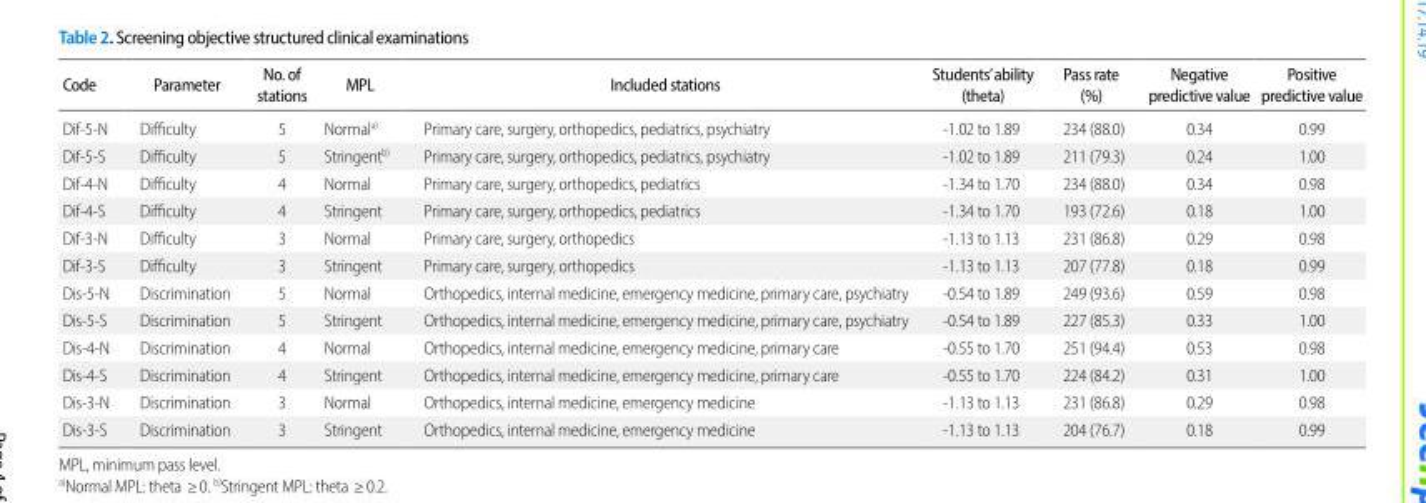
<table><thead><tr><td>Code</td><td>Parameter</td><td>No. of stations</td><td>MPL</td><td>Included stations</td><td>Students’ ability (theta)</td><td>Pass rate (%)</td><td>Negative predictive value</td><td>Positive predictive value</td></tr></thead><tbody><tr><td>Dif-5-N</td><td>Difficulty</td><td>5</td><td>Normal<sup>a)</sup></td><td>Primary care, surgery, orthopedics, pediatrics, psychiatry</td><td>-1.02 to 1.89</td><td>234 (88.0)</td><td>0.34</td><td>0.99</td></tr><tr><td>Dif-5-S</td><td>Difficulty</td><td>5</td><td>Stringent<sup>b)</sup></td><td>Primary care, surgery, orthopedics, pediatrics, psychiatry</td><td>-1.02 to 1.89</td><td>211 (79.3)</td><td>0.24</td><td>1.00</td></tr><tr><td>Dif-4-N</td><td>Difficulty</td><td>4</td><td>Normal</td><td>Primary care, surgery, orthopedics, pediatrics</td><td>-1.34 to 1.70</td><td>234 (88.0)</td><td>0.34</td><td>0.98</td></tr><tr><td>Dif-4-S</td><td>Difficulty</td><td>4</td><td>Stringent</td><td>Primary care, surgery, orthopedics, pediatrics</td><td>-1.34 to 1.70</td><td>193 (72.6)</td><td>0.18</td><td>1.00</td></tr><tr><td>Dif-3-N</td><td>Difficulty</td><td>3</td><td>Normal</td><td>Primary care, surgery, orthopedics</td><td>-1.13 to 1.13</td><td>231 (86.8)</td><td>0.29</td><td>0.98</td></tr><tr><td>Dif-3-S</td><td>Difficulty</td><td>3</td><td>Stringent</td><td>Primary care, surgery, orthopedics</td><td>-1.13 to 1.13</td><td>207 (77.8)</td><td>0.18</td><td>0.99</td></tr><tr><td>Dis-5-N</td><td>Discrimination</td><td>5</td><td>Normal</td><td>Orthopedics, internal medicine, emergency medicine, primary care, psychiatry</td><td>-0.54 to 1.89</td><td>249 (93.6)</td><td>0.59</td><td>0.98</td></tr><tr><td>Dis-5-S</td><td>Discrimination</td><td>5</td><td>Stringent</td><td>Orthopedics, internal medicine, emergency medicine, primary care, psychiatry</td><td>-0.54 to 1.89</td><td>227 (85.3)</td><td>0.33</td><td>1.00</td></tr><tr><td>Dis-4-N</td><td>Discrimination</td><td>4</td><td>Normal</td><td>Orthopedics, internal medicine, emergency medicine, primary care</td><td>-0.55 to 1.70</td><td>251 (94.4)</td><td>0.53</td><td>0.98</td></tr><tr><td>Dis-4-S</td><td>Discrimination</td><td>4</td><td>Stringent</td><td>Orthopedics, internal medicine, emergency medicine, primary care</td><td>-0.55 to 1.70</td><td>224 (84.2)</td><td>0.31</td><td>1.00</td></tr><tr><td>Dis-3-N</td><td>Discrimination</td><td>3</td><td>Normal</td><td>Orthopedics, internal medicine, emergency medicine</td><td>-1.13 to 1.13</td><td>231 (86.8)</td><td>0.29</td><td>0.98</td></tr><tr><td>Dis-3-S</td><td>Discrimination</td><td>3</td><td>Stringent</td><td>Orthopedics, internal medicine, emergency medicine</td><td>-1.13 to 1.13</td><td>204 (76.7)</td><td>0.18</td><td>0.99</td></tr></tbody></table>